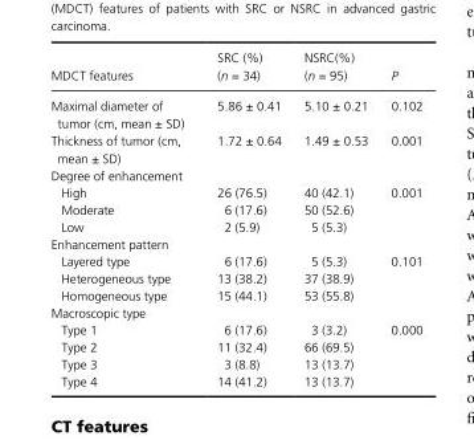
<table><thead><tr><td>MDCT features</td><td>SRC (%) (n = 34)</td><td>NSRC(%) (n = 95)</td><td>P</td></tr></thead><tbody><tr><td>Maximal diameter of tumor (cm, mean ± SD)</td><td>5.86 ± 0.41</td><td>5.10 ± 0.21</td><td>0.102</td></tr><tr><td>Thickness of tumor (cm, mean ± SD)</td><td>1.72 ± 0.64</td><td>1.49 ± 0.53</td><td>0.001</td></tr><tr><td colspan="4">Degree of enhancement</td></tr><tr><td>High</td><td>26 (76.5)</td><td>40 (42.1)</td><td rowspan="3">0.001</td></tr><tr><td>Moderate</td><td>6 (17.6)</td><td>50 (52.6)</td></tr><tr><td>Low</td><td>2 (5.9)</td><td>5 (5.3)</td></tr><tr><td colspan="4">Enhancement pattern</td></tr><tr><td>Layered type</td><td>6 (17.6)</td><td>5 (5.3)</td><td rowspan="3">0.101</td></tr><tr><td>Heterogeneous type</td><td>13 (38.2)</td><td>37 (38.9)</td></tr><tr><td>Homogeneous type</td><td>15 (44.1)</td><td>53 (55.8)</td></tr><tr><td colspan="4">Macroscopic type</td></tr><tr><td>Type 1</td><td>6 (17.6)</td><td>3 (3.2)</td><td rowspan="4">0.000</td></tr><tr><td>Type 2</td><td>11 (32.4)</td><td>66 (69.5)</td></tr><tr><td>Type 3</td><td>3 (8.8)</td><td>13 (13.7)</td></tr><tr><td>Type 4</td><td>14 (41.2)</td><td>13 (13.7)</td></tr></tbody></table>